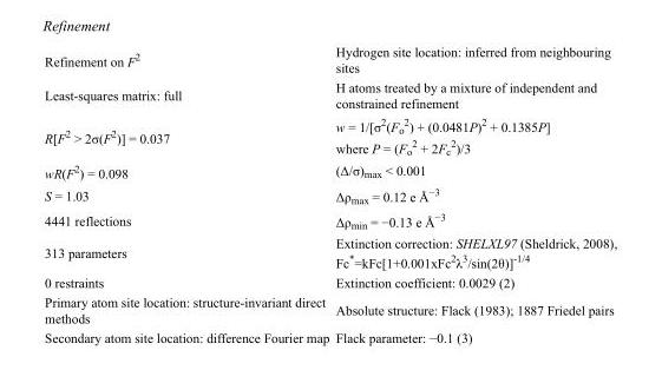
<table><tbody><tr><td>Refinement on F<sup>2</sup></td><td>Hydrogen site location: inferred from neighbouring sites</td></tr><tr><td>Least-squares matrix: full</td><td>H atoms treated by a mixture of independent and constrained refinement</td></tr><tr><td>R[F<sup>2</sup> &gt; 2σ(F<sup>2</sup>)] = 0.037</td><td>w = 1/[σ<sup>2</sup>(F<sub>o</sub> <sup>2</sup>) + (0.0481P)<sup>2</sup> + 0.1385P] where P = (F<sub>o</sub> <sup>2</sup> + 2F<sub>c</sub> <sup>2</sup>)/3</td></tr><tr><td>wR(F<sup>2</sup>) = 0.098</td><td>(Δ/σ)<sub>max</sub> &lt; 0.001</td></tr><tr><td>S = 1.03</td><td>Δρ<sub>max</sub> = 0.12 e Å<sup>−3</sup></td></tr><tr><td>4441 reflections</td><td>Δρ<sub>min</sub> = −0.13 e Å<sup>−3</sup></td></tr><tr><td>313 parameters</td><td>Extinction correction: SHELXL97 (Sheldrick, 2008), Fc*=kFc[1+0.001xFc<sup>2</sup>λ<sup>3</sup>/sin(2θ)]<sup>-1/4</sup></td></tr><tr><td>0 restraints</td><td>Extinction coefficient: 0.0029 (2)</td></tr><tr><td>Primary atom site location: structure-invariant direct methods</td><td>Absolute structure: Flack (1983); 1887 Friedel pairs</td></tr><tr><td>Secondary atom site location: difference Fourier map</td><td>Flack parameter: −0.1 (3)</td></tr></tbody></table>